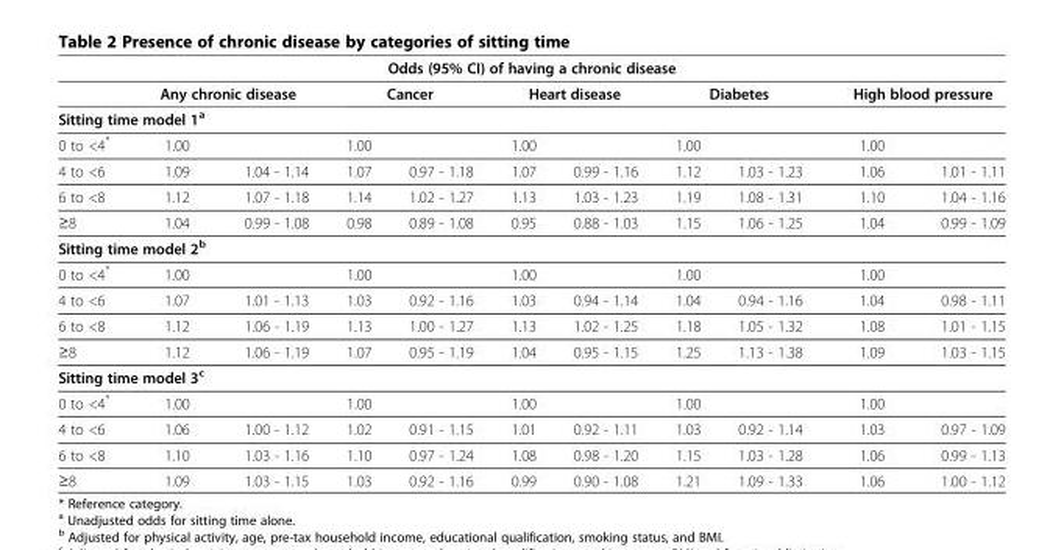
<table><thead><tr><td colspan="11">Odds (95% CI) of having a chronic disease</td></tr><tr><td></td><td colspan="2">Any chronic disease</td><td colspan="2">Cancer</td><td colspan="2">Heart disease</td><td colspan="2">Diabetes</td><td colspan="2">High blood pressure</td></tr><tr><td colspan="11">Sitting time model 1<sup>a</sup></td></tr><tr><td>0 to &lt;4*</td><td>1.00</td><td></td><td>1.00</td><td></td><td>1.00</td><td></td><td>1.00</td><td></td><td>1.00</td><td></td></tr></thead><tbody><tr><td>4 to &lt;6</td><td>1.09</td><td>1.04 - 1.14</td><td>1.07</td><td>0.97 - 1.18</td><td>1.07</td><td>0.99 - 1.16</td><td>1.12</td><td>1.03 - 1.23</td><td>1.06</td><td>1.01 - 1.11</td></tr><tr><td>6 to &lt;8</td><td>1.12</td><td>1.07 - 1.18</td><td>1.14</td><td>1.02 - 1.27</td><td>1.13</td><td>1.03 - 1.23</td><td>1.19</td><td>1.08 - 1.31</td><td>1.10</td><td>1.04 - 1.16</td></tr><tr><td>≥8</td><td>1.04</td><td>0.99 - 1.08</td><td>0.98</td><td>0.89 - 1.08</td><td>0.95</td><td>0.88 - 1.03</td><td>1.15</td><td>1.06 - 1.25</td><td>1.04</td><td>0.99 - 1.09</td></tr><tr><td colspan="11">Sitting time model 2<sup>b</sup></td></tr><tr><td>0 to &lt;4*</td><td>1.00</td><td></td><td>1.00</td><td></td><td>1.00</td><td></td><td>1.00</td><td></td><td>1.00</td><td></td></tr><tr><td>4 to &lt;6</td><td>1.07</td><td>1.01 - 1.13</td><td>1.03</td><td>0.92 - 1.16</td><td>1.03</td><td>0.94 - 1.14</td><td>1.04</td><td>0.94 - 1.16</td><td>1.04</td><td>0.98 - 1.11</td></tr><tr><td>6 to &lt;8</td><td>1.12</td><td>1.06 - 1.19</td><td>1.13</td><td>1.00 - 1.27</td><td>1.13</td><td>1.02 - 1.25</td><td>1.18</td><td>1.05 - 1.32</td><td>1.08</td><td>1.01 - 1.15</td></tr><tr><td>≥8</td><td>1.12</td><td>1.06 - 1.19</td><td>1.07</td><td>0.95 - 1.19</td><td>1.04</td><td>0.95 - 1.15</td><td>1.25</td><td>1.13 - 1.38</td><td>1.09</td><td>1.03 - 1.15</td></tr><tr><td colspan="11">Sitting time model 3<sup>c</sup></td></tr><tr><td>0 to &lt;4*</td><td>1.00</td><td></td><td>1.00</td><td></td><td>1.00</td><td></td><td>1.00</td><td></td><td>1.00</td><td></td></tr><tr><td>4 to &lt;6</td><td>1.06</td><td>1.00 - 1.12</td><td>1.02</td><td>0.91 - 1.15</td><td>1.01</td><td>0.92 - 1.11</td><td>1.03</td><td>0.92 - 1.14</td><td>1.03</td><td>0.97 - 1.09</td></tr><tr><td>6 to &lt;8</td><td>1.10</td><td>1.03 - 1.16</td><td>1.10</td><td>0.97 - 1.24</td><td>1.08</td><td>0.98 - 1.20</td><td>1.15</td><td>1.03 - 1.28</td><td>1.06</td><td>0.99 - 1.13</td></tr><tr><td>≥8</td><td>1.09</td><td>1.03 - 1.15</td><td>1.03</td><td>0.92 - 1.16</td><td>0.99</td><td>0.90 - 1.08</td><td>1.21</td><td>1.09 - 1.33</td><td>1.06</td><td>1.00 - 1.12</td></tr></tbody></table>